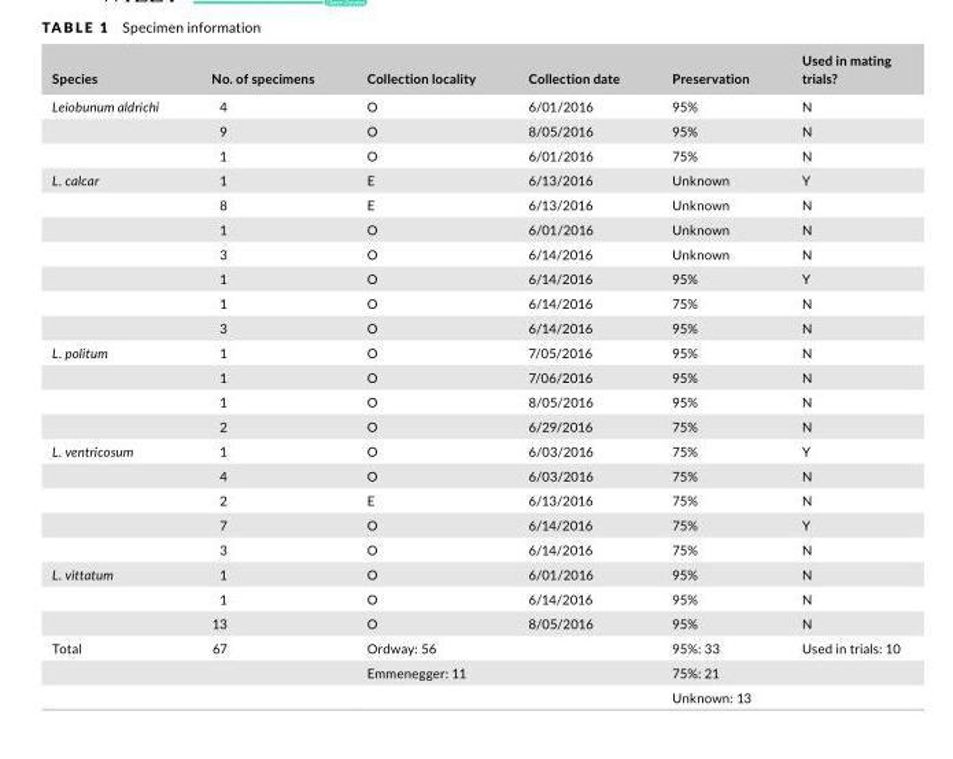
<table><thead><tr><td>Species</td><td>No. of specimens</td><td>Collection locality</td><td>Collection date</td><td>Preservation</td><td>Used in mating trials?</td></tr></thead><tbody><tr><td rowspan="3">Leiobunum aldrichi</td><td>4</td><td>O</td><td>6/01/2016</td><td>95%</td><td>N</td></tr><tr><td>9</td><td>O</td><td>8/05/2016</td><td>95%</td><td>N</td></tr><tr><td>1</td><td>O</td><td>6/01/2016</td><td>75%</td><td>N</td></tr><tr><td rowspan="7">L. calcar</td><td>1</td><td>E</td><td>6/13/2016</td><td>Unknown</td><td>Y</td></tr><tr><td>8</td><td>E</td><td>6/13/2016</td><td>Unknown</td><td>N</td></tr><tr><td>1</td><td>O</td><td>6/01/2016</td><td>Unknown</td><td>N</td></tr><tr><td>3</td><td>O</td><td>6/14/2016</td><td>Unknown</td><td>N</td></tr><tr><td>1</td><td>O</td><td>6/14/2016</td><td>95%</td><td>Y</td></tr><tr><td>1</td><td>O</td><td>6/14/2016</td><td>75%</td><td>N</td></tr><tr><td>3</td><td>O</td><td>6/14/2016</td><td>95%</td><td>N</td></tr><tr><td rowspan="4">L. politum</td><td>1</td><td>O</td><td>7/05/2016</td><td>95%</td><td>N</td></tr><tr><td>1</td><td>O</td><td>7/06/2016</td><td>95%</td><td>N</td></tr><tr><td>1</td><td>O</td><td>8/05/2016</td><td>95%</td><td>N</td></tr><tr><td>2</td><td>O</td><td>6/29/2016</td><td>75%</td><td>N</td></tr><tr><td rowspan="5">L. ventricosum</td><td>1</td><td>O</td><td>6/03/2016</td><td>75%</td><td>Y</td></tr><tr><td>4</td><td>O</td><td>6/03/2016</td><td>75%</td><td>N</td></tr><tr><td>2</td><td>E</td><td>6/13/2016</td><td>75%</td><td>N</td></tr><tr><td>7</td><td>O</td><td>6/14/2016</td><td>75%</td><td>Y</td></tr><tr><td>3</td><td>O</td><td>6/14/2016</td><td>75%</td><td>N</td></tr><tr><td rowspan="3">L. vittatum</td><td>1</td><td>O</td><td>6/01/2016</td><td>95%</td><td>N</td></tr><tr><td>1</td><td>O</td><td>6/14/2016</td><td>95%</td><td>N</td></tr><tr><td>13</td><td>O</td><td>8/05/2016</td><td>95%</td><td>N</td></tr><tr><td rowspan="3">Total</td><td>67</td><td>Ordway: 56</td><td></td><td>95%: 33</td><td>Used in trials: 10</td></tr><tr><td></td><td>Emmenegger: 11</td><td></td><td>75%: 21</td><td></td></tr><tr><td></td><td></td><td></td><td>Unknown: 13</td><td></td></tr></tbody></table>